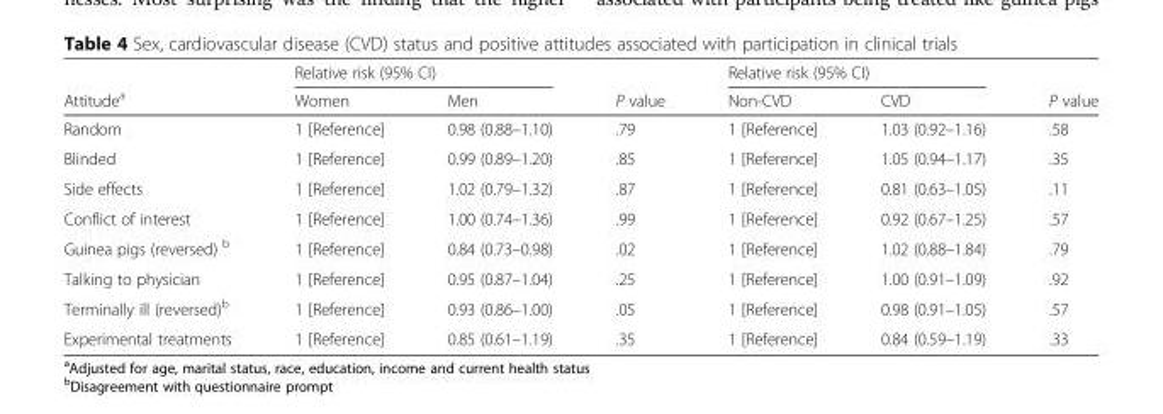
<table><thead><tr><td rowspan="2">Attitude<sup>a</sup></td><td colspan="2">Relative risk (95% CI)</td><td rowspan="2">P value</td><td colspan="2">Relative risk (95% CI)</td><td rowspan="2">P value</td></tr><tr><td>Women</td><td>Men</td><td>Non-CVD</td><td>CVD</td></tr></thead><tbody><tr><td>Random</td><td>1 [Reference]</td><td>0.98 (0.88–1.10)</td><td>.79</td><td>1 [Reference]</td><td>1.03 (0.92–1.16)</td><td>.58</td></tr><tr><td>Blinded</td><td>1 [Reference]</td><td>0.99 (0.89–1.20)</td><td>.85</td><td>1 [Reference]</td><td>1.05 (0.94–1.17)</td><td>.35</td></tr><tr><td>Side effects</td><td>1 [Reference]</td><td>1.02 (0.79–1.32)</td><td>.87</td><td>1 [Reference]</td><td>0.81 (0.63–1.05)</td><td>.11</td></tr><tr><td>Conflict of interest</td><td>1 [Reference]</td><td>1.00 (0.74–1.36)</td><td>.99</td><td>1 [Reference]</td><td>0.92 (0.67–1.25)</td><td>.57</td></tr><tr><td>Guinea pigs (reversed) <sup>b</sup></td><td>1 [Reference]</td><td>0.84 (0.73–0.98)</td><td>.02</td><td>1 [Reference]</td><td>1.02 (0.88–1.84)</td><td>.79</td></tr><tr><td>Talking to physician</td><td>1 [Reference]</td><td>0.95 (0.87–1.04)</td><td>.25</td><td>1 [Reference]</td><td>1.00 (0.91–1.09)</td><td>.92</td></tr><tr><td>Terminally ill (reversed)<sup>b</sup></td><td>1 [Reference]</td><td>0.93 (0.86–1.00)</td><td>.05</td><td>1 [Reference]</td><td>0.98 (0.91–1.05)</td><td>.57</td></tr><tr><td>Experimental treatments</td><td>1 [Reference]</td><td>0.85 (0.61–1.19)</td><td>.35</td><td>1 [Reference]</td><td>0.84 (0.59–1.19)</td><td>.33</td></tr></tbody></table>